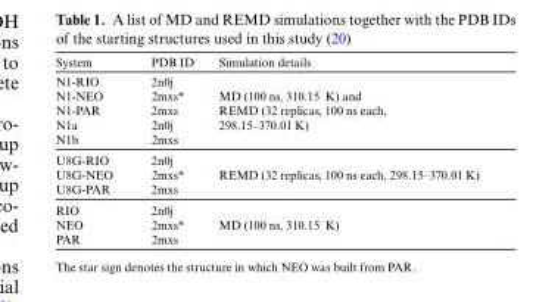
<table><thead><tr><td>System</td><td>PDB ID</td><td>Simulation details</td></tr></thead><tbody><tr><td>N1-RIO</td><td>2n0j</td><td></td></tr><tr><td>N1-NEO</td><td>2mxs*</td><td>MD (100 ns, 310.15 K) and</td></tr><tr><td>N1-PAR</td><td>2mxs</td><td>REMD (32 replicas, 100 ns each,</td></tr><tr><td>N1a</td><td>2n0j</td><td>298.15–370.01 K)</td></tr><tr><td>N1b</td><td>2mxs</td><td></td></tr><tr><td>U8G-RIO</td><td>2n0j</td><td></td></tr><tr><td>U8G-NEO</td><td>2mxs*</td><td>REMD (32 replicas, 100 ns each, 298.15–370.01 K)</td></tr><tr><td>U8G-PAR</td><td>2mxs</td><td></td></tr><tr><td>RIO</td><td>2n0j</td><td></td></tr><tr><td>NEO</td><td>2mxs*</td><td>MD (100 ns, 310.15 K)</td></tr><tr><td>PAR</td><td>2mxs</td><td></td></tr></tbody></table>